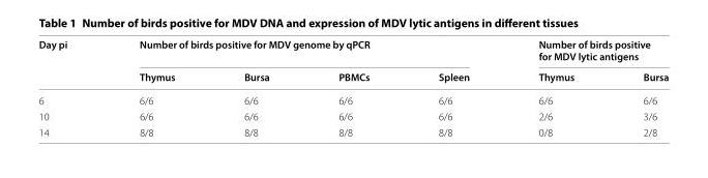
<table><thead><tr><td rowspan="2">Day pi</td><td colspan="4">Number of birds positive for MDV genome by qPCR</td><td colspan="2">Number of birds positive for MDV lytic antigens</td></tr><tr><td>Thymus</td><td>Bursa</td><td>PBMCs</td><td>Spleen</td><td>Thymus</td><td>Bursa</td></tr></thead><tbody><tr><td>6</td><td>6/6</td><td>6/6</td><td>6/6</td><td>6/6</td><td>6/6</td><td>6/6</td></tr><tr><td>10</td><td>6/6</td><td>6/6</td><td>6/6</td><td>6/6</td><td>2/6</td><td>3/6</td></tr><tr><td>14</td><td>8/8</td><td>8/8</td><td>8/8</td><td>8/8</td><td>0/8</td><td>2/8</td></tr></tbody></table>